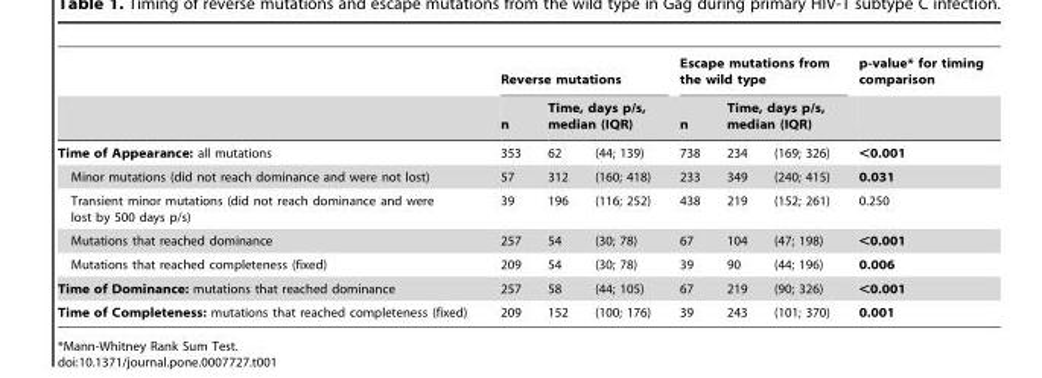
<table><thead><tr><td rowspan="3">Time of Appearance: all mutations</td><td colspan="3">Reverse mutations</td><td colspan="3">Escape mutations from the wild type</td><td rowspan="3">p-value* for timing comparison &lt;0.001</td></tr><tr><td rowspan="2">n 353</td><td colspan="2">Time, days p/s, median (IQR)</td><td rowspan="2">n 738</td><td colspan="2">Time, days p/s, median (IQR)</td></tr><tr><td>62</td><td>(44; 139)</td><td>234</td><td>(169; 326)</td></tr></thead><tbody><tr><td>Minor mutations (did not reach dominance and were not lost)</td><td>57</td><td>312</td><td>(160; 418)</td><td>233</td><td>349</td><td>(240; 415)</td><td>0.031</td></tr><tr><td>Transient minor mutations (did not reach dominance and were lost by 500 days p/s)</td><td>39</td><td>196</td><td>(116; 252)</td><td>438</td><td>219</td><td>(152; 261)</td><td>0.250</td></tr><tr><td>Mutations that reached dominance</td><td>257</td><td>54</td><td>(30; 78)</td><td>67</td><td>104</td><td>(47; 198)</td><td>&lt;0.001</td></tr><tr><td>Mutations that reached completeness (fixed)</td><td>209</td><td>54</td><td>(30; 78)</td><td>39</td><td>90</td><td>(44; 196)</td><td>0.006</td></tr><tr><td>Time of Dominance: mutations that reached dominance</td><td>257</td><td>58</td><td>(44; 105)</td><td>67</td><td>219</td><td>(90; 326)</td><td>&lt;0.001</td></tr><tr><td>Time of Completeness: mutations that reached completeness (fixed)</td><td>209</td><td>152</td><td>(100; 176)</td><td>39</td><td>243</td><td>(101; 370)</td><td>0.001</td></tr></tbody></table>